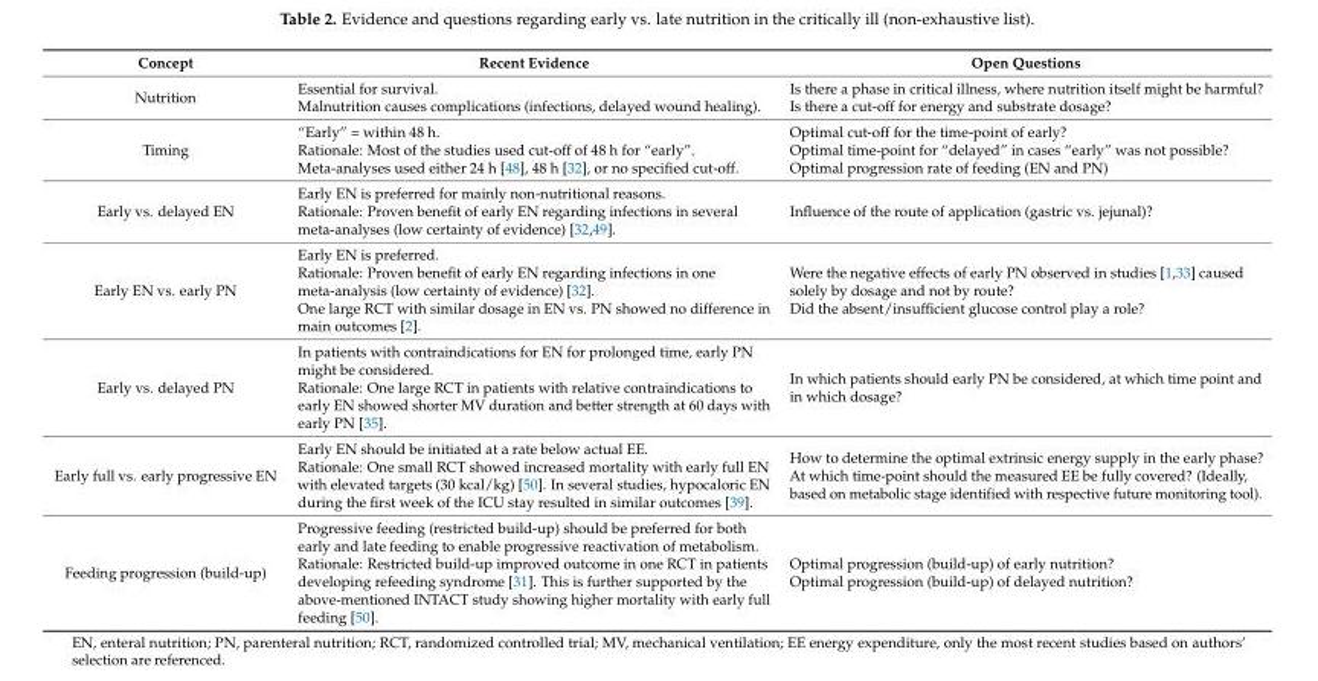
<table><thead><tr><td>Concept</td><td>Recent Evidence</td><td>Open Questions</td></tr></thead><tbody><tr><td>Nutrition</td><td>Essential for survival. Malnutrition causes complications (infections, delayed wound healing).</td><td>Is there a phase in critical illness, where nutrition itself might be harmful? Is there a cut-off for energy and substrate dosage?</td></tr><tr><td>Timing</td><td>“Early” = within 48 h. Rationale: Most of the studies used cut-off of 48 h for “early”. Meta-analyses used either 24 h [48], 48 h [32], or no specified cut-off.</td><td>Optimal cut-off for the time-point of early? Optimal time-point for “delayed” in cases “early” was not possible? Optimal progression rate of feeding (EN and PN)</td></tr><tr><td>Early vs. delayed EN</td><td>Early EN is preferred for mainly non-nutritional reasons. Rationale: Proven benefit of early EN regarding infections in several meta-analyses (low certainty of evidence) [32,49].</td><td>Influence of the route of application (gastric vs. jejunal)?</td></tr><tr><td>Early EN vs. early PN</td><td>Early EN is preferred. Rationale: Proven benefit of early EN regarding infections in one meta-analysis (low certainty of evidence) [32]. One large RCT with similar dosage in EN vs. PN showed no difference in main outcomes [2].</td><td>Were the negative effects of early PN observed in studies [1,33] caused solely by dosage and not by route? Did the absent/insufficient glucose control play a role?</td></tr><tr><td>Early vs. delayed PN</td><td>In patients with contraindications for EN for prolonged time, early PN might be considered. Rationale: One large RCT in patients with relative contraindications to early EN showed shorter MV duration and better strength at 60 days with early PN [35].</td><td>In which patients should early PN be considered, at which time point and in which dosage?</td></tr><tr><td>Early full vs. early progressive EN</td><td>Early EN should be initiated at a rate below actual EE. Rationale: One small RCT showed increased mortality with early full EN with elevated targets (30 kcal/kg) [50]. In several studies, hypocaloric EN during the first week of the ICU stay resulted in similar outcomes [39].</td><td>How to determine the optimal extrinsic energy supply in the early phase? At which time-point should the measured EE be fully covered? (Ideally, based on metabolic stage identified with respective future monitoring tool).</td></tr><tr><td>Feeding progression (build-up)</td><td>Progressive feeding (restricted build-up) should be preferred for both early and late feeding to enable progressive reactivation of metabolism. Rationale: Restricted build-up improved outcome in one RCT in patients developing refeeding syndrome [31]. This is further supported by the above-mentioned INTACT study showing higher mortality with early full feeding [50].</td><td>Optimal progression (build-up) of early nutrition? Optimal progression (build-up) of delayed nutrition?</td></tr></tbody></table>